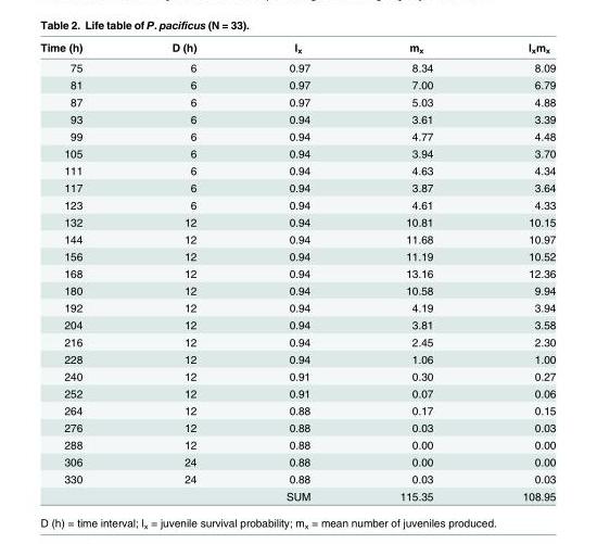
<table><thead><tr><td>Time (h)</td><td>D (h)</td><td>l<sub>x</sub></td><td>m<sub>x</sub></td><td>l<sub>x</sub>m<sub>x</sub></td></tr></thead><tbody><tr><td>75</td><td>6</td><td>0.97</td><td>8.34</td><td>8.09</td></tr><tr><td>81</td><td>6</td><td>0.97</td><td>7.00</td><td>6.79</td></tr><tr><td>87</td><td>6</td><td>0.97</td><td>5.03</td><td>4.88</td></tr><tr><td>93</td><td>6</td><td>0.94</td><td>3.61</td><td>3.39</td></tr><tr><td>99</td><td>6</td><td>0.94</td><td>4.77</td><td>4.48</td></tr><tr><td>105</td><td>6</td><td>0.94</td><td>3.94</td><td>3.70</td></tr><tr><td>111</td><td>6</td><td>0.94</td><td>4.63</td><td>4.34</td></tr><tr><td>117</td><td>6</td><td>0.94</td><td>3.87</td><td>3.64</td></tr><tr><td>123</td><td>6</td><td>0.94</td><td>4.61</td><td>4.33</td></tr><tr><td>132</td><td>12</td><td>0.94</td><td>10.81</td><td>10.15</td></tr><tr><td>144</td><td>12</td><td>0.94</td><td>11.68</td><td>10.97</td></tr><tr><td>156</td><td>12</td><td>0.94</td><td>11.19</td><td>10.52</td></tr><tr><td>168</td><td>12</td><td>0.94</td><td>13.16</td><td>12.36</td></tr><tr><td>180</td><td>12</td><td>0.94</td><td>10.58</td><td>9.94</td></tr><tr><td>192</td><td>12</td><td>0.94</td><td>4.19</td><td>3.94</td></tr><tr><td>204</td><td>12</td><td>0.94</td><td>3.81</td><td>3.58</td></tr><tr><td>216</td><td>12</td><td>0.94</td><td>2.45</td><td>2.30</td></tr><tr><td>228</td><td>12</td><td>0.94</td><td>1.06</td><td>1.00</td></tr><tr><td>240</td><td>12</td><td>0.91</td><td>0.30</td><td>0.27</td></tr><tr><td>252</td><td>12</td><td>0.91</td><td>0.07</td><td>0.06</td></tr><tr><td>264</td><td>12</td><td>0.88</td><td>0.17</td><td>0.15</td></tr><tr><td>276</td><td>12</td><td>0.88</td><td>0.03</td><td>0.03</td></tr><tr><td>288</td><td>12</td><td>0.88</td><td>0.00</td><td>0.00</td></tr><tr><td>306</td><td>24</td><td>0.88</td><td>0.00</td><td>0.00</td></tr><tr><td rowspan="2">330</td><td>24</td><td>0.88</td><td>0.03</td><td>0.03</td></tr><tr><td></td><td>SUM</td><td>115.35</td><td>108.95</td></tr></tbody></table>